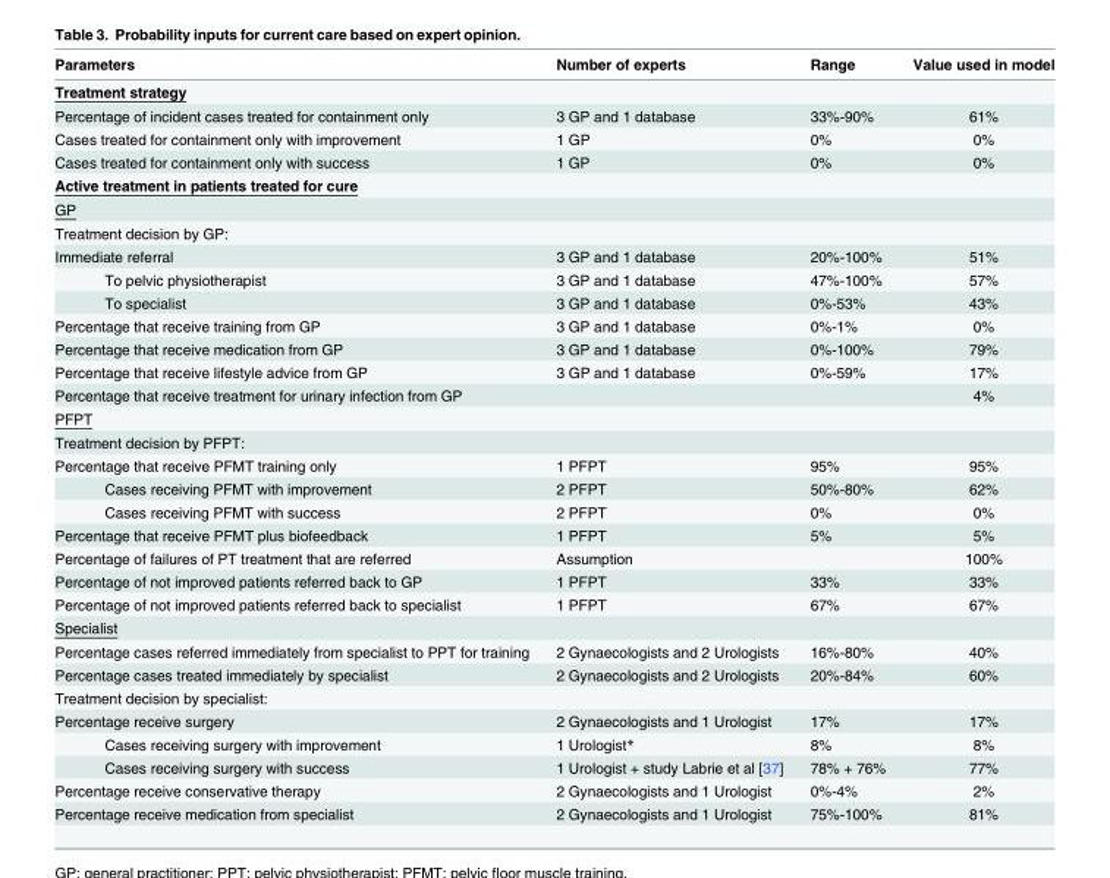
<table><thead><tr><td>Parameters</td><td>Number of experts</td><td>Range</td><td>Value used in model</td></tr></thead><tbody><tr><td colspan="4">Treatment strategy</td></tr><tr><td>Percentage of incident cases treated for containment only</td><td>3 GP and 1 database</td><td>33%-90%</td><td>61%</td></tr><tr><td>Cases treated for containment only with improvement</td><td>1 GP</td><td>0%</td><td>0%</td></tr><tr><td>Cases treated for containment only with success</td><td>1 GP</td><td>0%</td><td>0%</td></tr><tr><td colspan="4">Active treatment in patients treated for cure</td></tr><tr><td colspan="4">GP</td></tr><tr><td colspan="4">Treatment decision by GP:</td></tr><tr><td>Immediate referral</td><td>3 GP and 1 database</td><td>20%-100%</td><td>51%</td></tr><tr><td>To pelvic physiotherapist</td><td>3 GP and 1 database</td><td>47%-100%</td><td>57%</td></tr><tr><td>To specialist</td><td>3 GP and 1 database</td><td>0%-53%</td><td>43%</td></tr><tr><td>Percentage that receive training from GP</td><td>3 GP and 1 database</td><td>0%-1%</td><td>0%</td></tr><tr><td>Percentage that receive medication from GP</td><td>3 GP and 1 database</td><td>0%-100%</td><td>79%</td></tr><tr><td>Percentage that receive lifestyle advice from GP</td><td>3 GP and 1 database</td><td>0%-59%</td><td>17%</td></tr><tr><td>Percentage that receive treatment for urinary infection from GP</td><td></td><td></td><td>4%</td></tr><tr><td colspan="4">PFPT</td></tr><tr><td colspan="4">Treatment decision by PFPT:</td></tr><tr><td>Percentage that receive PFMT training only</td><td>1 PFPT</td><td>95%</td><td>95%</td></tr><tr><td>Cases receiving PFMT with improvement</td><td>2 PFPT</td><td>50%-80%</td><td>62%</td></tr><tr><td>Cases receiving PFMT with success</td><td>2 PFPT</td><td>0%</td><td>0%</td></tr><tr><td>Percentage that receive PFMT plus biofeedback</td><td>1 PFPT</td><td>5%</td><td>5%</td></tr><tr><td>Percentage of failures of PT treatment that are referred</td><td>Assumption</td><td></td><td>100%</td></tr><tr><td>Percentage of not improved patients referred back to GP</td><td>1 PFPT</td><td>33%</td><td>33%</td></tr><tr><td>Percentage of not improved patients referred back to specialist</td><td>1 PFPT</td><td>67%</td><td>67%</td></tr><tr><td colspan="4">Specialist</td></tr><tr><td>Percentage cases referred immediately from specialist to PPT for training</td><td>2 Gynaecologists and 2 Urologists</td><td>16%-80%</td><td>40%</td></tr><tr><td>Percentage cases treated immediately by specialist</td><td>2 Gynaecologists and 2 Urologists</td><td>20%-84%</td><td>60%</td></tr><tr><td colspan="4">Treatment decision by specialist:</td></tr><tr><td>Percentage receive surgery</td><td>2 Gynaecologists and 1 Urologist</td><td>17%</td><td>17%</td></tr><tr><td>Cases receiving surgery with improvement</td><td>1 Urologist*</td><td>8%</td><td>8%</td></tr><tr><td>Cases receiving surgery with success</td><td>1 Urologist + study Labrie et al [37]</td><td>78% + 76%</td><td>77%</td></tr><tr><td>Percentage receive conservative therapy</td><td>2 Gynaecologists and 1 Urologist</td><td>0%-4%</td><td>2%</td></tr><tr><td>Percentage receive medication from specialist</td><td>2 Gynaecologists and 1 Urologist</td><td>75%-100%</td><td>81%</td></tr></tbody></table>